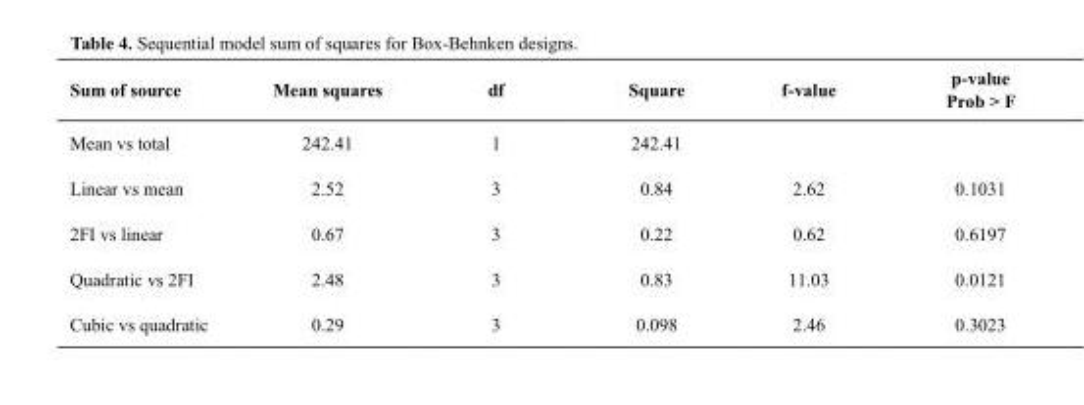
<table><thead><tr><td>Sum of source</td><td>Mean squares</td><td>df</td><td>Square</td><td>f-value</td><td>p-value Prob &gt; F</td></tr></thead><tbody><tr><td>Mean vs total</td><td>242.41</td><td>1</td><td>242.41</td><td></td><td></td></tr><tr><td>Linear vs mean</td><td>2.52</td><td>3</td><td>0.84</td><td>2.62</td><td>0.1031</td></tr><tr><td>2FI vs linear</td><td>0.67</td><td>3</td><td>0.22</td><td>0.62</td><td>0.6197</td></tr><tr><td>Quadratic vs 2FI</td><td>2.48</td><td>3</td><td>0.83</td><td>11.03</td><td>0.0121</td></tr><tr><td>Cubic vs quadratic</td><td>0.29</td><td>3</td><td>0.098</td><td>2.46</td><td>0.3023</td></tr></tbody></table>